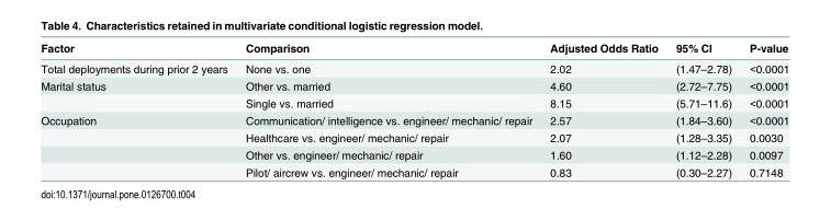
<table><thead><tr><td>Factor</td><td>Comparison</td><td>Adjusted Odds Ratio</td><td>95% CI</td><td>P-value</td></tr></thead><tbody><tr><td>Total deployments during prior 2 years</td><td>None vs. one</td><td>2.02</td><td>(1.47–2.78)</td><td>&lt;0.0001</td></tr><tr><td rowspan="2">Marital status</td><td>Other vs. married</td><td>4.60</td><td>(2.72–7.75)</td><td>&lt;0.0001</td></tr><tr><td>Single vs. married</td><td>8.15</td><td>(5.71–11.6)</td><td>&lt;0.0001</td></tr><tr><td rowspan="4">Occupation</td><td>Communication/ intelligence vs. engineer/ mechanic/ repair</td><td>2.57</td><td>(1.84–3.60)</td><td>&lt;0.0001</td></tr><tr><td>Healthcare vs. engineer/ mechanic/ repair</td><td>2.07</td><td>(1.28–3.35)</td><td>0.0030</td></tr><tr><td>Other vs. engineer/ mechanic/ repair</td><td>1.60</td><td>(1.12–2.28)</td><td>0.0097</td></tr><tr><td>Pilot/ aircrew vs. engineer/ mechanic/ repair</td><td>0.83</td><td>(0.30–2.27)</td><td>0.7148</td></tr></tbody></table>